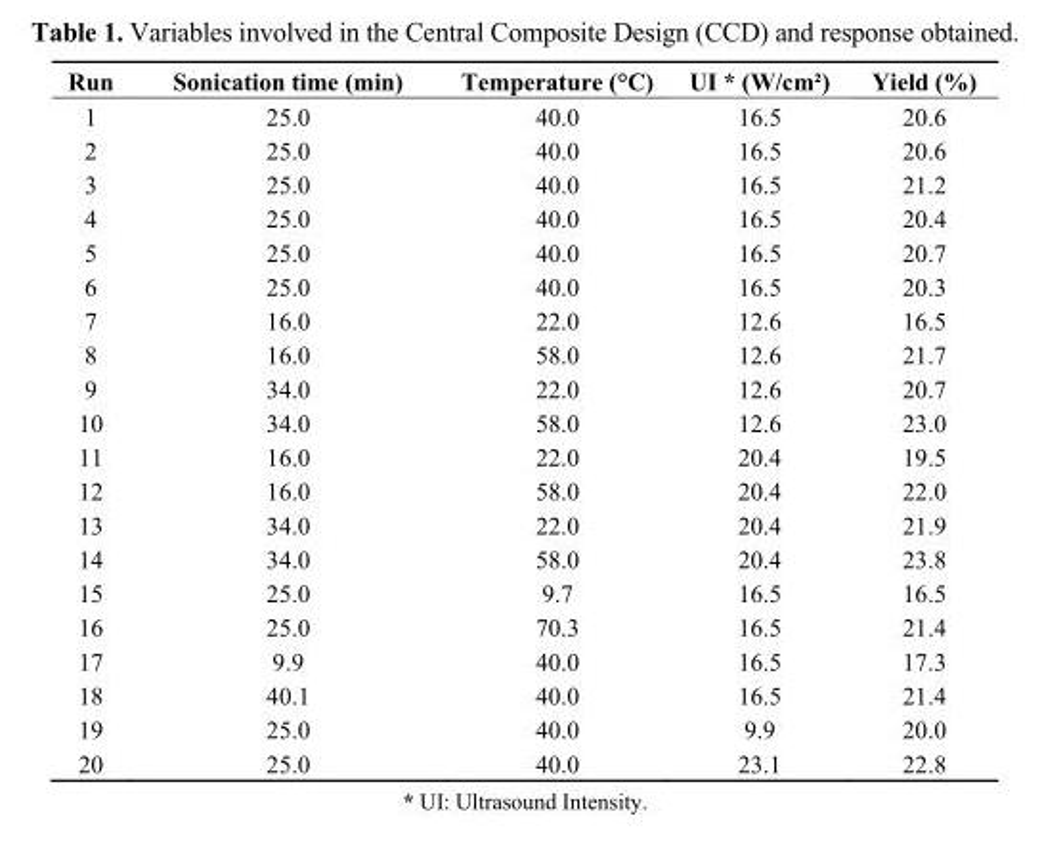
<table><thead><tr><td>Run</td><td>Sonication time (min)</td><td>Temperature (°C)</td><td>UI * (W/cm²)</td><td>Yield (%)</td></tr></thead><tbody><tr><td>1</td><td>25.0</td><td>40.0</td><td>16.5</td><td>20.6</td></tr><tr><td>2</td><td>25.0</td><td>40.0</td><td>16.5</td><td>20.6</td></tr><tr><td>3</td><td>25.0</td><td>40.0</td><td>16.5</td><td>21.2</td></tr><tr><td>4</td><td>25.0</td><td>40.0</td><td>16.5</td><td>20.4</td></tr><tr><td>5</td><td>25.0</td><td>40.0</td><td>16.5</td><td>20.7</td></tr><tr><td>6</td><td>25.0</td><td>40.0</td><td>16.5</td><td>20.3</td></tr><tr><td>7</td><td>16.0</td><td>22.0</td><td>12.6</td><td>16.5</td></tr><tr><td>8</td><td>16.0</td><td>58.0</td><td>12.6</td><td>21.7</td></tr><tr><td>9</td><td>34.0</td><td>22.0</td><td>12.6</td><td>20.7</td></tr><tr><td>10</td><td>34.0</td><td>58.0</td><td>12.6</td><td>23.0</td></tr><tr><td>11</td><td>16.0</td><td>22.0</td><td>20.4</td><td>19.5</td></tr><tr><td>12</td><td>16.0</td><td>58.0</td><td>20.4</td><td>22.0</td></tr><tr><td>13</td><td>34.0</td><td>22.0</td><td>20.4</td><td>21.9</td></tr><tr><td>14</td><td>34.0</td><td>58.0</td><td>20.4</td><td>23.8</td></tr><tr><td>15</td><td>25.0</td><td>9.7</td><td>16.5</td><td>16.5</td></tr><tr><td>16</td><td>25.0</td><td>70.3</td><td>16.5</td><td>21.4</td></tr><tr><td>17</td><td>9.9</td><td>40.0</td><td>16.5</td><td>17.3</td></tr><tr><td>18</td><td>40.1</td><td>40.0</td><td>16.5</td><td>21.4</td></tr><tr><td>19</td><td>25.0</td><td>40.0</td><td>9.9</td><td>20.0</td></tr><tr><td>20</td><td>25.0</td><td>40.0</td><td>23.1</td><td>22.8</td></tr></tbody></table>